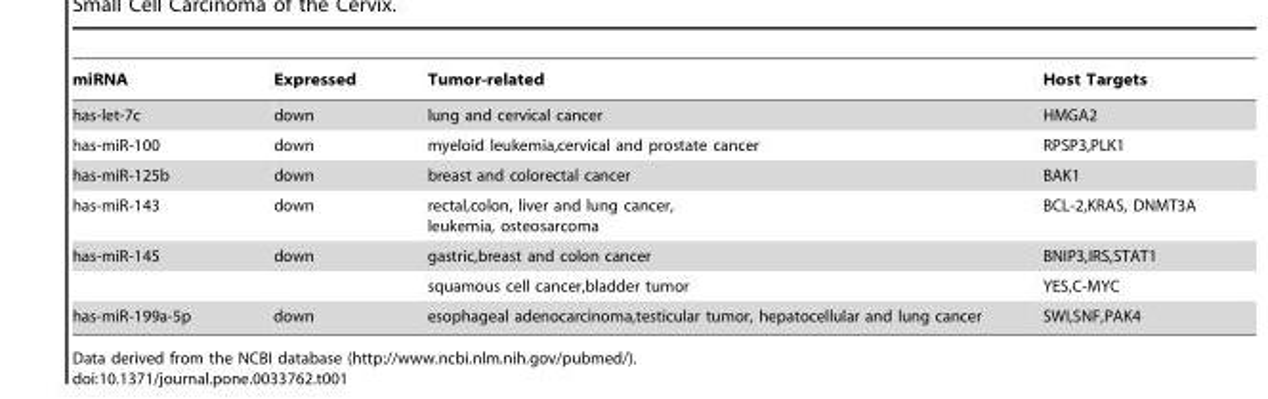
<table><thead><tr><td>miRNA</td><td>Expressed</td><td>Tumor-related</td><td>Host Targets</td></tr></thead><tbody><tr><td>has-let-7c</td><td>down</td><td>lung and cervical cancer</td><td>HMGA2</td></tr><tr><td>has-miR-100</td><td>down</td><td>myeloid leukemia,cervical and prostate cancer</td><td>RPSP3,PLK1</td></tr><tr><td>has-miR-125b</td><td>down</td><td>breast and colorectal cancer</td><td>BAK1</td></tr><tr><td>has-miR-143</td><td>down</td><td>rectal,colon, liver and lung cancer, leukemia, osteosarcoma</td><td>BCL-2,KRAS, DNMT3A</td></tr><tr><td rowspan="2">has-miR-145</td><td>down</td><td>gastric,breast and colon cancer</td><td>BNIP3,IRS,STAT1</td></tr><tr><td></td><td>squamous cell cancer,bladder tumor</td><td>YES,C-MYC</td></tr><tr><td>has-miR-199a-5p</td><td>down</td><td>esophageal adenocarcinoma,testicular tumor, hepatocellular and lung cancer</td><td>SWI,SNF,PAK4</td></tr></tbody></table>